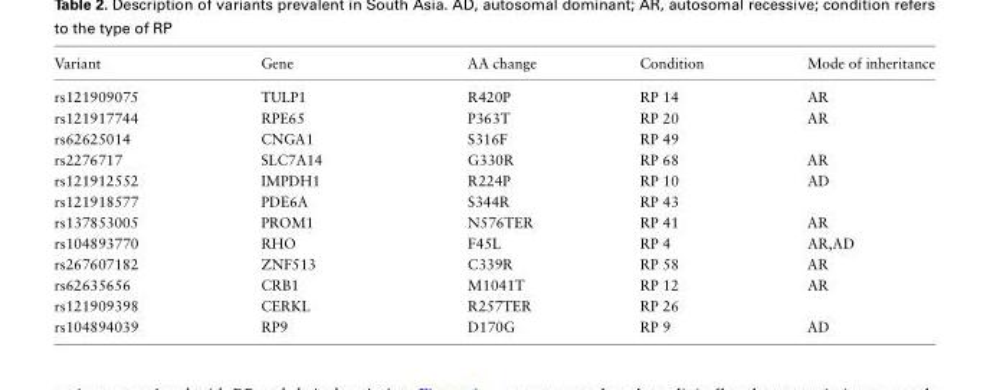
<table><thead><tr><td>Variant</td><td>Gene</td><td>AA change</td><td>Condition</td><td>Mode of inheritance</td></tr></thead><tbody><tr><td>rs121909075</td><td>TULP1</td><td>R420P</td><td>RP 14</td><td>AR</td></tr><tr><td>rs121917744</td><td>RPE65</td><td>P363T</td><td>RP 20</td><td>AR</td></tr><tr><td>rs62625014</td><td>CNGA1</td><td>S316F</td><td>RP 49</td><td></td></tr><tr><td>rs2276717</td><td>SLC7A14</td><td>G330R</td><td>RP 68</td><td>AR</td></tr><tr><td>rs121912552</td><td>IMPDH1</td><td>R224P</td><td>RP 10</td><td>AD</td></tr><tr><td>rs121918577</td><td>PDE6A</td><td>S344R</td><td>RP 43</td><td></td></tr><tr><td>rs137853005</td><td>PROM1</td><td>N576TER</td><td>RP 41</td><td>AR</td></tr><tr><td>rs104893770</td><td>RHO</td><td>F45L</td><td>RP 4</td><td>AR,AD</td></tr><tr><td>rs267607182</td><td>ZNF513</td><td>C339R</td><td>RP 58</td><td>AR</td></tr><tr><td>rs62635656</td><td>CRB1</td><td>M1041T</td><td>RP 12</td><td>AR</td></tr><tr><td>rs121909398</td><td>CERKL</td><td>R257TER</td><td>RP 26</td><td></td></tr><tr><td>rs104894039</td><td>RP9</td><td>D170G</td><td>RP 9</td><td>AD</td></tr></tbody></table>